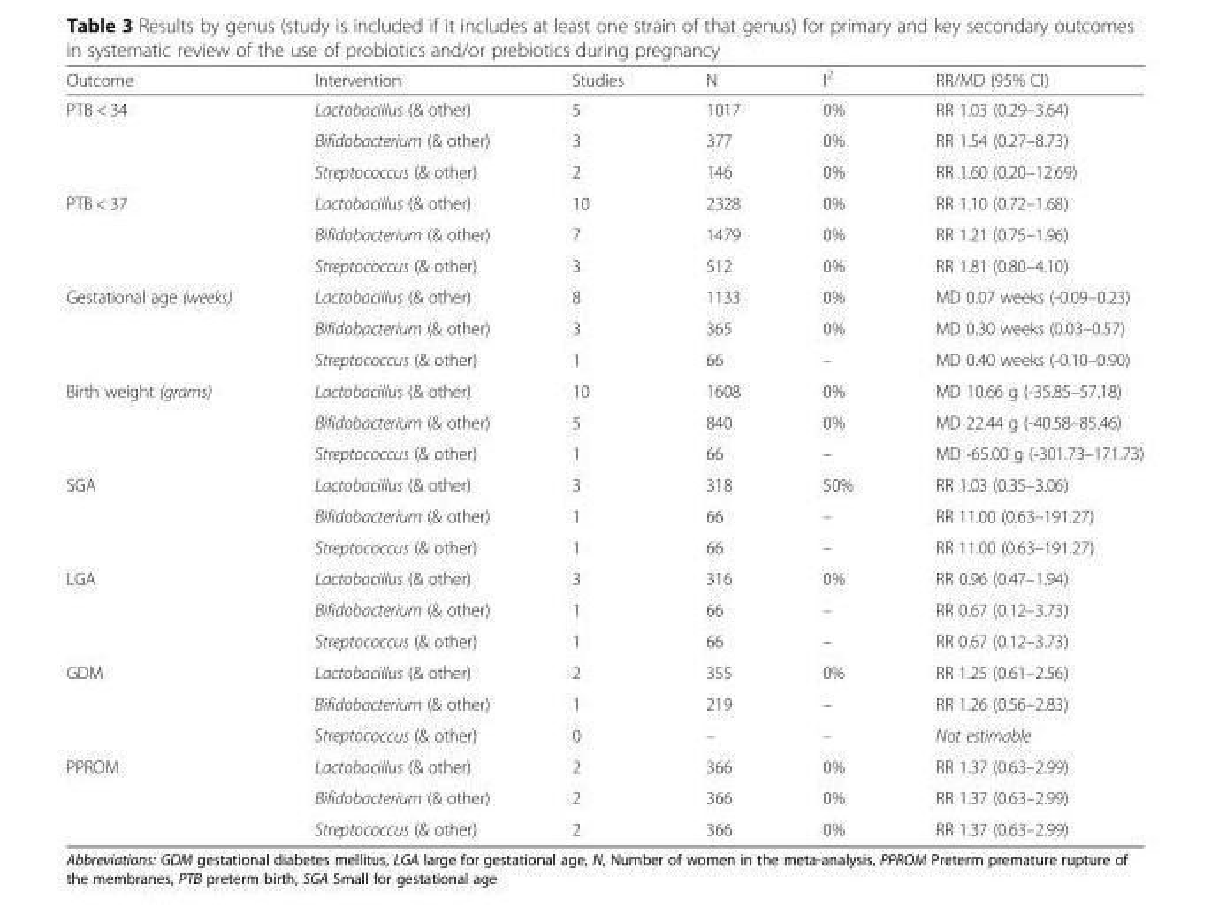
<table><thead><tr><td>Outcome</td><td>Intervention</td><td>Studies</td><td>N</td><td>I<sup>2</sup></td><td>RR/MD (95% CI)</td></tr></thead><tbody><tr><td rowspan="3">PTB &lt; 34</td><td>Lactobacillus (&amp; other)</td><td>5</td><td>1017</td><td>0%</td><td>RR 1.03 (0.29–3.64)</td></tr><tr><td>Bifidobacterium (&amp; other)</td><td>3</td><td>377</td><td>0%</td><td>RR 1.54 (0.27–8.73)</td></tr><tr><td>Streptococcus (&amp; other)</td><td>2</td><td>146</td><td>0%</td><td>RR 1.60 (0.20–12.69)</td></tr><tr><td rowspan="3">PTB &lt; 37</td><td>Lactobacillus (&amp; other)</td><td>10</td><td>2328</td><td>0%</td><td>RR 1.10 (0.72–1.68)</td></tr><tr><td>Bifidobacterium (&amp; other)</td><td>7</td><td>1479</td><td>0%</td><td>RR 1.21 (0.75–1.96)</td></tr><tr><td>Streptococcus (&amp; other)</td><td>3</td><td>512</td><td>0%</td><td>RR 1.81 (0.80–4.10)</td></tr><tr><td rowspan="3">Gestational age (weeks)</td><td>Lactobacillus (&amp; other)</td><td>8</td><td>1133</td><td>0%</td><td>MD 0.07 weeks (-0.09–0.23)</td></tr><tr><td>Bifidobacterium (&amp; other)</td><td>3</td><td>365</td><td>0%</td><td>MD 0.30 weeks (0.03–0.57)</td></tr><tr><td>Streptococcus (&amp; other)</td><td>1</td><td>66</td><td>–</td><td>MD 0.40 weeks (-0.10–0.90)</td></tr><tr><td rowspan="3">Birth weight (grams)</td><td>Lactobacillus (&amp; other)</td><td>10</td><td>1608</td><td>0%</td><td>MD 10.66 g (-35.85–57.18)</td></tr><tr><td>Bifidobacterium (&amp; other)</td><td>5</td><td>840</td><td>0%</td><td>MD 22.44 g (-40.58–85.46)</td></tr><tr><td>Streptococcus (&amp; other)</td><td>1</td><td>66</td><td>–</td><td>MD -65.00 g (-301.73–171.73)</td></tr><tr><td rowspan="3">SGA</td><td>Lactobacillus (&amp; other)</td><td>3</td><td>318</td><td>50%</td><td>RR 1.03 (0.35–3.06)</td></tr><tr><td>Bifidobacterium (&amp; other)</td><td>1</td><td>66</td><td>–</td><td>RR 11.00 (0.63–191.27)</td></tr><tr><td>Streptococcus (&amp; other)</td><td>1</td><td>66</td><td>–</td><td>RR 11.00 (0.63–191.27)</td></tr><tr><td rowspan="3">LGA</td><td>Lactobacillus (&amp; other)</td><td>3</td><td>316</td><td>0%</td><td>RR 0.96 (0.47–1.94)</td></tr><tr><td>Bifidobacterium (&amp; other)</td><td>1</td><td>66</td><td>–</td><td>RR 0.67 (0.12–3.73)</td></tr><tr><td>Streptococcus (&amp; other)</td><td>1</td><td>66</td><td>–</td><td>RR 0.67 (0.12–3.73)</td></tr><tr><td rowspan="3">GDM</td><td>Lactobacillus (&amp; other)</td><td>2</td><td>355</td><td>0%</td><td>RR 1.25 (0.61–2.56)</td></tr><tr><td>Bifidobacterium (&amp; other)</td><td>1</td><td>219</td><td>–</td><td>RR 1.26 (0.56–2.83)</td></tr><tr><td>Streptococcus (&amp; other)</td><td>0</td><td>–</td><td>–</td><td>Not estimable</td></tr><tr><td rowspan="3">PPROM</td><td>Lactobacillus (&amp; other)</td><td>2</td><td>366</td><td>0%</td><td>RR 1.37 (0.63–2.99)</td></tr><tr><td>Bifidobacterium (&amp; other)</td><td>2</td><td>366</td><td>0%</td><td>RR 1.37 (0.63–2.99)</td></tr><tr><td>Streptococcus (&amp; other)</td><td>2</td><td>366</td><td>0%</td><td>RR 1.37 (0.63–2.99)</td></tr></tbody></table>